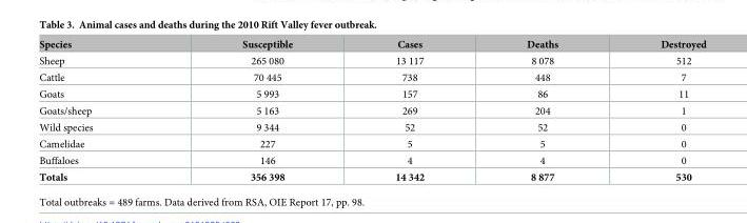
<table><thead><tr><td>Species</td><td>Susceptible</td><td>Cases</td><td>Deaths</td><td>Destroyed</td></tr></thead><tbody><tr><td>Sheep</td><td>265 080</td><td>13 117</td><td>8 078</td><td>512</td></tr><tr><td>Cattle</td><td>70 445</td><td>738</td><td>448</td><td>7</td></tr><tr><td>Goats</td><td>5 993</td><td>157</td><td>86</td><td>11</td></tr><tr><td>Goats/sheep</td><td>5 163</td><td>269</td><td>204</td><td>1</td></tr><tr><td>Wild species</td><td>9 344</td><td>52</td><td>52</td><td>0</td></tr><tr><td>Camelidae</td><td>227</td><td>5</td><td>5</td><td>0</td></tr><tr><td>Buffaloes</td><td>146</td><td>4</td><td>4</td><td>0</td></tr><tr><td>Totals</td><td>356 398</td><td>14 342</td><td>8 877</td><td>530</td></tr></tbody></table>